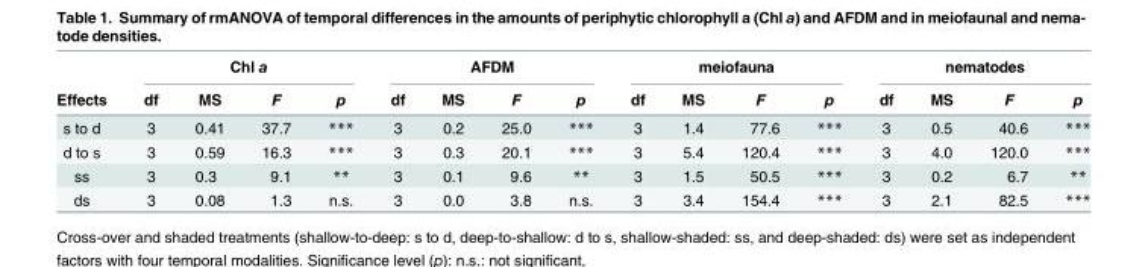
<table><thead><tr><td rowspan="2">Effects</td><td colspan="4">Chl a</td><td colspan="4">AFDM</td><td colspan="4">meiofauna</td><td colspan="4">nematodes</td></tr><tr><td>df</td><td>MS</td><td>F</td><td>p</td><td>df</td><td>MS</td><td>F</td><td>p</td><td>df</td><td>MS</td><td>F</td><td>p</td><td>df</td><td>MS</td><td>F</td><td>p</td></tr></thead><tbody><tr><td>s to d</td><td>3</td><td>0.41</td><td>37.7</td><td>***</td><td>3</td><td>0.2</td><td>25.0</td><td>***</td><td>3</td><td>1.4</td><td>77.6</td><td>***</td><td>3</td><td>0.5</td><td>40.6</td><td>***</td></tr><tr><td>d to s</td><td>3</td><td>0.59</td><td>16.3</td><td>***</td><td>3</td><td>0.3</td><td>20.1</td><td>***</td><td>3</td><td>5.4</td><td>120.4</td><td>***</td><td>3</td><td>4.0</td><td>120.0</td><td>***</td></tr><tr><td>ss</td><td>3</td><td>0.3</td><td>9.1</td><td>**</td><td>3</td><td>0.1</td><td>9.6</td><td>**</td><td>3</td><td>1.5</td><td>50.5</td><td>***</td><td>3</td><td>0.2</td><td>6.7</td><td>**</td></tr><tr><td>ds</td><td>3</td><td>0.08</td><td>1.3</td><td>n.s.</td><td>3</td><td>0.0</td><td>3.8</td><td>n.s.</td><td>3</td><td>3.4</td><td>154.4</td><td>***</td><td>3</td><td>2.1</td><td>82.5</td><td>***</td></tr></tbody></table>